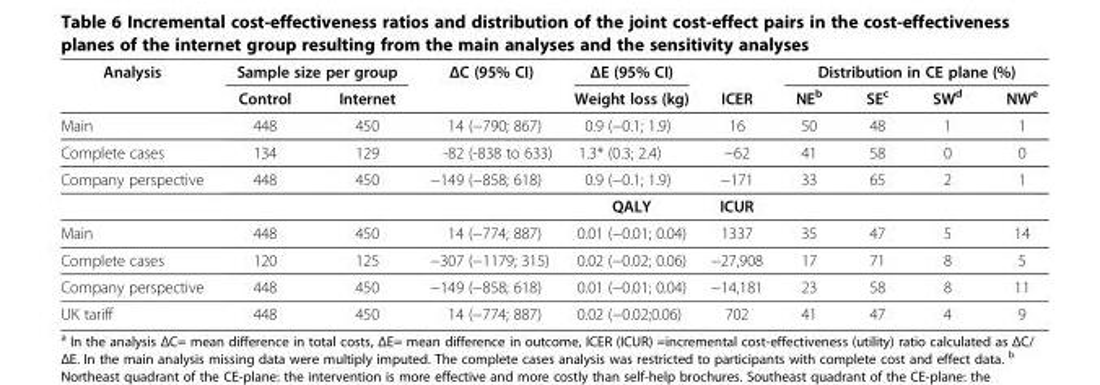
<table><thead><tr><td rowspan="2">Analysis</td><td colspan="2">Sample size per group</td><td rowspan="2">ΔC (95% CI)</td><td rowspan="2">ΔE (95% CI) Weight loss (kg)</td><td rowspan="2">ICER</td><td colspan="4">Distribution in CE plane (%)</td></tr><tr><td>Control</td><td>Internet</td><td>NE<sup>b</sup></td><td>SE<sup>c</sup></td><td>SW<sup>d</sup></td><td>NW<sup>e</sup></td></tr></thead><tbody><tr><td>Main</td><td>448</td><td>450</td><td>14 (−790; 867)</td><td>0.9 (−0.1; 1.9)</td><td>16</td><td>50</td><td>48</td><td>1</td><td>1</td></tr><tr><td>Complete cases</td><td>134</td><td>129</td><td>-82 (-838 to 633)</td><td>1.3* (0.3; 2.4)</td><td>−62</td><td>41</td><td>58</td><td>0</td><td>0</td></tr><tr><td rowspan="2">Company perspective</td><td>448</td><td>450</td><td>−149 (−858; 618)</td><td>0.9 (−0.1; 1.9)</td><td>−171</td><td>33</td><td>65</td><td>2</td><td>1</td></tr><tr><td></td><td></td><td></td><td>QALY</td><td>ICUR</td><td></td><td></td><td></td><td></td></tr><tr><td>Main</td><td>448</td><td>450</td><td>14 (−774; 887)</td><td>0.01 (−0.01; 0.04)</td><td>1337</td><td>35</td><td>47</td><td>5</td><td>14</td></tr><tr><td>Complete cases</td><td>120</td><td>125</td><td>−307 (−1179; 315)</td><td>0.02 (−0.02; 0.06)</td><td>−27,908</td><td>17</td><td>71</td><td>8</td><td>5</td></tr><tr><td>Company perspective</td><td>448</td><td>450</td><td>−149 (−858; 618)</td><td>0.01 (−0.01; 0.04)</td><td>−14,181</td><td>23</td><td>58</td><td>8</td><td>11</td></tr><tr><td>UK tariff</td><td>448</td><td>450</td><td>14 (−774; 887)</td><td>0.02 (−0.02;0.06)</td><td>702</td><td>41</td><td>47</td><td>4</td><td>9</td></tr></tbody></table>